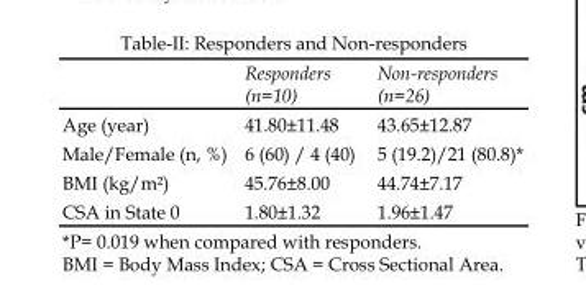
<table><thead><tr><td></td><td>Responders (n=10)</td><td>Non-responders (n=26)</td></tr></thead><tbody><tr><td>Age (year)</td><td>41.80±11.48</td><td>43.65±12.87</td></tr><tr><td>Male/Female (n, %)</td><td>6 (60) / 4 (40)</td><td>5 (19.2)/21 (80.8)*</td></tr><tr><td>BMI (kg/m²)</td><td>45.76±8.00</td><td>44.74±7.17</td></tr><tr><td>CSA in State 0</td><td>1.80±1.32</td><td>1.96±1.47</td></tr></tbody></table>